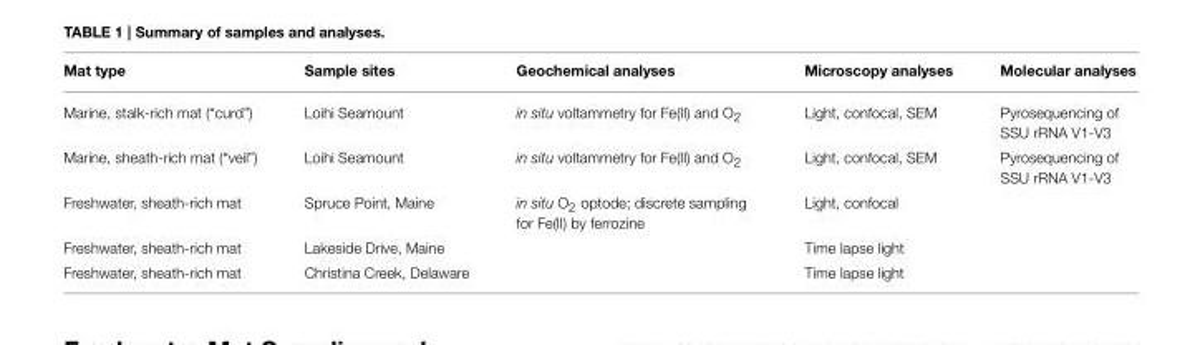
<table><thead><tr><td>Mat type</td><td>Sample sites</td><td>Geochemical analyses</td><td>Microscopy analyses</td><td>Molecular analyses</td></tr></thead><tbody><tr><td>Marine, stalk-rich mat (“curd”)</td><td>Loihi Seamount</td><td>in situ voltammetry for Fe(II) and O<sub>2</sub></td><td>Light, confocal, SEM</td><td>Pyrosequencing of SSU rRNA V1-V3</td></tr><tr><td>Marine, sheath-rich mat (“veil”)</td><td>Loihi Seamount</td><td>in situ voltammetry for Fe(II) and O<sub>2</sub></td><td>Light, confocal, SEM</td><td>Pyrosequencing of SSU rRNA V1-V3</td></tr><tr><td>Freshwater, sheath-rich mat</td><td>Spruce Point, Maine</td><td>in situ O<sub>2</sub> optode; discrete sampling for Fe(II) by ferrozine</td><td>Light, confocal</td><td></td></tr><tr><td>Freshwater, sheath-rich mat</td><td>Lakeside Drive, Maine</td><td></td><td>Time lapse light</td><td></td></tr><tr><td>Freshwater, sheath-rich mat</td><td>Christina Creek, Delaware</td><td></td><td>Time lapse light</td><td></td></tr></tbody></table>